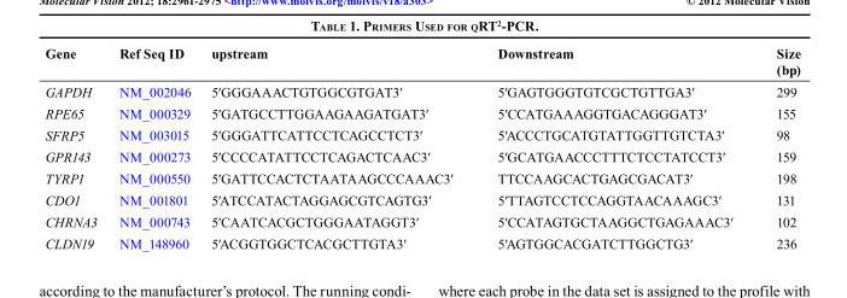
<table><thead><tr><td>Gene</td><td>Ref Seq ID</td><td>upstream</td><td>Downstream</td><td>Size (bp)</td></tr></thead><tbody><tr><td>GAPDH</td><td>NM_002046</td><td>5′GGGAAACTGTGGCGTGAT3′</td><td>5′GAGTGGGTGTCGCTGTTGA3′</td><td>299</td></tr><tr><td>RPE65</td><td>NM_000329</td><td>5′GATGCCTTGGAAGAAGATGAT3′</td><td>5′CCATGAAAGGTGACAGGGAT3′</td><td>155</td></tr><tr><td>SFRP5</td><td>NM_003015</td><td>5′GGGATTCATTCCTCAGCCTCT3′</td><td>5′ACCCTGCATGTATTGGTTGTCTA3′</td><td>98</td></tr><tr><td>GPR143</td><td>NM_000273</td><td>5′CCCCATATTCCTCAGACTCAAC3′</td><td>5′GCATGAACCCTTTCTCCTATCCT3′</td><td>159</td></tr><tr><td>TYRP1</td><td>NM_000550</td><td>5′GATTCCACTCTAATAAGCCCAAAC3′</td><td>TTCCAAGCACTGAGCGACAT3′</td><td>198</td></tr><tr><td>CDO1</td><td>NM_001801</td><td>5′ATCCATACTAGGAGCGTCAGTG3′</td><td>5′TTAGTCCTCCAGGTAACAAAGC3′</td><td>131</td></tr><tr><td>CHRNA3</td><td>NM_000743</td><td>5′CAATCACGCTGGGAATAGGT3′</td><td>5′CCATAGTGCTAAGGCTGAGAAAC3′</td><td>102</td></tr><tr><td>CLDN19</td><td>NM_148960</td><td>5′ACGGTGGCTCACGCTTGTA3′</td><td>5′AGTGGCACGATCTTGGCTG3′</td><td>236</td></tr></tbody></table>